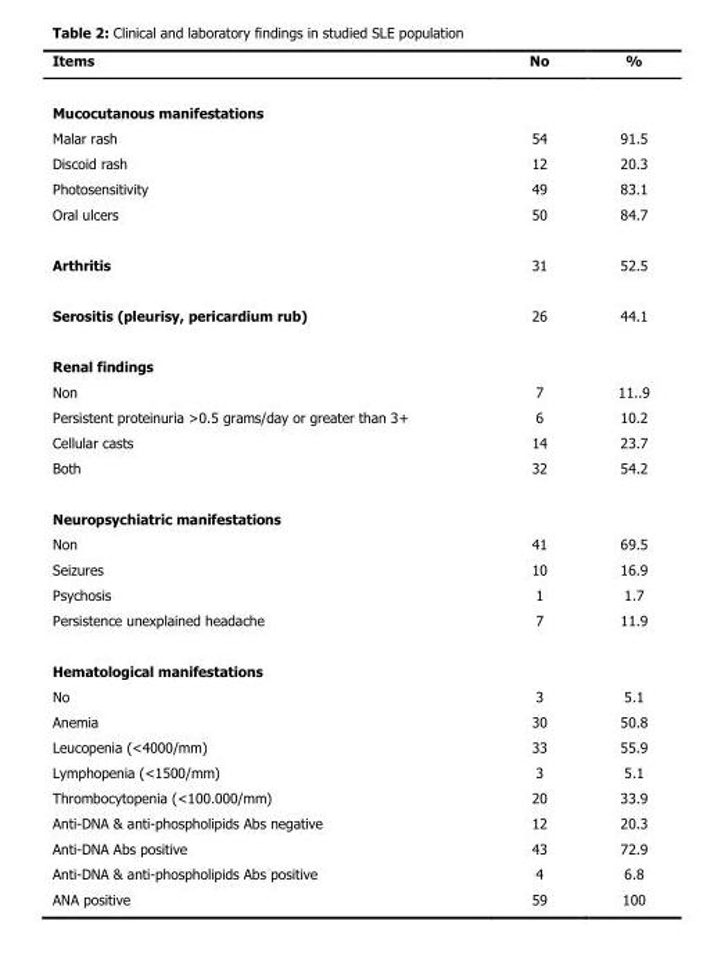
<table><thead><tr><td rowspan="28">Items Mucocutanous manifestations Malar rash Discoid rash Photosensitivity Oral ulcers Arthritis Serositis (pleurisy, pericardium rub) Renal findings Non Persistent proteinuria &gt;0.5 grams/day or greater than 3+ Cellular casts Both Neuropsychiatric manifestations Non Seizures Psychosis Persistence unexplained headache Hematological manifestations No Anemia Leucopenia (&lt;4000/mm) Lymphopenia (&lt;1500/mm) Thrombocytopenia (&lt;100.000/mm) Anti-DNA &amp; anti-phospholipids Abs negative Anti-DNA Abs positive Anti-DNA &amp; anti-phospholipids Abs positive ANA positive</td><td rowspan="28">No 54 12 49 50 31 26 7 6 14 32 41 10 1 7 3 30 33 3 20 12 43 4 59</td><td rowspan="28">% 91.5 20.3 83.1 84.7 52.5 44.1 11..9 10.2 23.7 54.2 69.5 16.9 1.7 11.9 5.1 50.8 55.9 5.1 33.9 20.3 72.9 6.8 100</td></tr><tr></tr><tr></tr><tr></tr><tr></tr><tr></tr><tr></tr><tr></tr><tr></tr><tr></tr><tr></tr><tr></tr><tr></tr><tr></tr><tr></tr><tr></tr><tr></tr><tr></tr><tr></tr><tr></tr><tr></tr><tr></tr><tr></tr><tr></tr><tr></tr><tr></tr><tr></tr><tr></tr></thead><tbody></tbody></table>